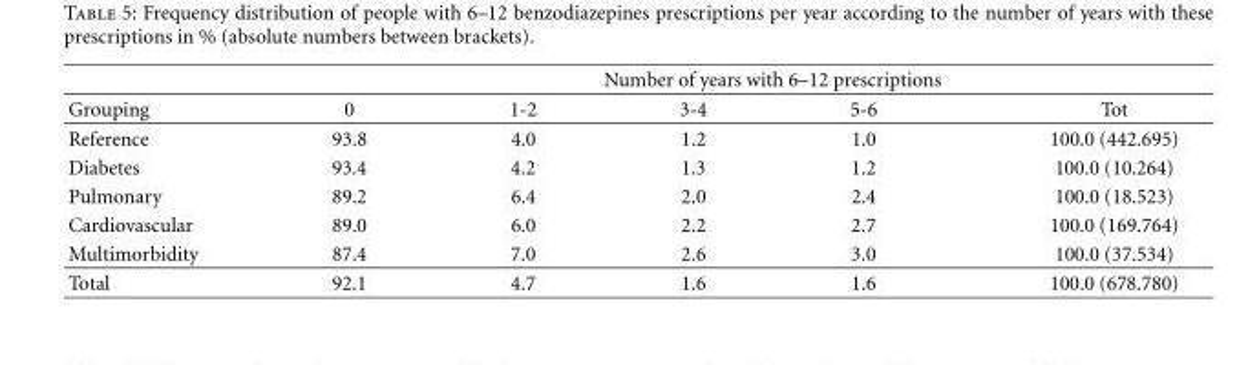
<table><thead><tr><td rowspan="2">Grouping</td><td colspan="5">Number of years with 6–12 prescriptions</td></tr><tr><td>0</td><td>1-2</td><td>3-4</td><td>5-6</td><td>Tot</td></tr></thead><tbody><tr><td>Reference</td><td>93.8</td><td>4.0</td><td>1.2</td><td>1.0</td><td>100.0 (442.695)</td></tr><tr><td>Diabetes</td><td>93.4</td><td>4.2</td><td>1.3</td><td>1.2</td><td>100.0 (10.264)</td></tr><tr><td>Pulmonary</td><td>89.2</td><td>6.4</td><td>2.0</td><td>2.4</td><td>100.0 (18.523)</td></tr><tr><td>Cardiovascular</td><td>89.0</td><td>6.0</td><td>2.2</td><td>2.7</td><td>100.0 (169.764)</td></tr><tr><td>Multimorbidity</td><td>87.4</td><td>7.0</td><td>2.6</td><td>3.0</td><td>100.0 (37.534)</td></tr><tr><td>Total</td><td>92.1</td><td>4.7</td><td>1.6</td><td>1.6</td><td>100.0 (678.780)</td></tr></tbody></table>